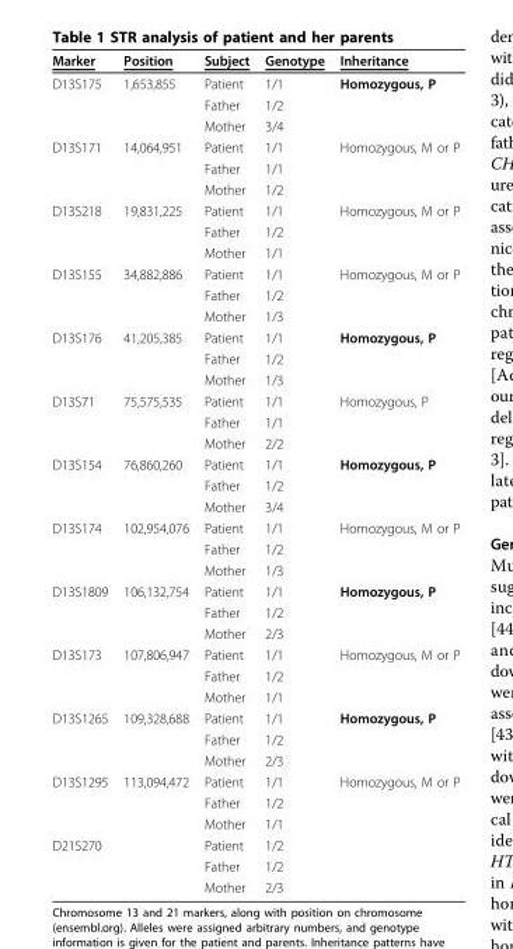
<table><thead><tr><td>Marker</td><td>Position</td><td>Subject</td><td>Genotype</td><td>Inheritance</td></tr></thead><tbody><tr><td rowspan="3">D13S175</td><td>1,653,855</td><td>Patient</td><td>1/1</td><td>Homozygous, P</td></tr><tr><td></td><td>Father</td><td>1/2</td><td></td></tr><tr><td></td><td>Mother</td><td>3/4</td><td></td></tr><tr><td rowspan="3">D13S171</td><td>14,064,951</td><td>Patient</td><td>1/1</td><td>Homozygous, M or P</td></tr><tr><td></td><td>Father</td><td>1/1</td><td></td></tr><tr><td></td><td>Mother</td><td>1/2</td><td></td></tr><tr><td rowspan="3">D13S218</td><td>19,831,225</td><td>Patient</td><td>1/1</td><td>Homozygous, M or P</td></tr><tr><td></td><td>Father</td><td>1/2</td><td></td></tr><tr><td></td><td>Mother</td><td>1/1</td><td></td></tr><tr><td rowspan="3">D13S155</td><td>34,882,886</td><td>Patient</td><td>1/1</td><td>Homozygous, M or P</td></tr><tr><td></td><td>Father</td><td>1/2</td><td></td></tr><tr><td></td><td>Mother</td><td>1/3</td><td></td></tr><tr><td rowspan="3">D13S176</td><td>41,205,385</td><td>Patient</td><td>1/1</td><td>Homozygous, P</td></tr><tr><td></td><td>Father</td><td>1/2</td><td></td></tr><tr><td></td><td>Mother</td><td>1/3</td><td></td></tr><tr><td rowspan="3">D13S71</td><td>75,575,535</td><td>Patient</td><td>1/1</td><td>Homozygous, P</td></tr><tr><td></td><td>Father</td><td>1/1</td><td></td></tr><tr><td></td><td>Mother</td><td>2/2</td><td></td></tr><tr><td rowspan="3">D13S154</td><td>76,860,260</td><td>Patient</td><td>1/1</td><td>Homozygous, P</td></tr><tr><td></td><td>Father</td><td>1/2</td><td></td></tr><tr><td></td><td>Mother</td><td>3/4</td><td></td></tr><tr><td rowspan="3">D13S174</td><td>102,954,076</td><td>Patient</td><td>1/1</td><td>Homozygous, M or P</td></tr><tr><td></td><td>Father</td><td>1/2</td><td></td></tr><tr><td></td><td>Mother</td><td>1/3</td><td></td></tr><tr><td rowspan="3">D13S1809</td><td>106,132,754</td><td>Patient</td><td>1/1</td><td>Homozygous, P</td></tr><tr><td></td><td>Father</td><td>1/2</td><td></td></tr><tr><td></td><td>Mother</td><td>2/3</td><td></td></tr><tr><td rowspan="3">D13S173</td><td>107,806,947</td><td>Patient</td><td>1/1</td><td>Homozygous, M or P</td></tr><tr><td></td><td>Father</td><td>1/2</td><td></td></tr><tr><td></td><td>Mother</td><td>1/1</td><td></td></tr><tr><td rowspan="3">D13S1265</td><td>109,328,688</td><td>Patient</td><td>1/1</td><td>Homozygous, P</td></tr><tr><td></td><td>Father</td><td>1/2</td><td></td></tr><tr><td></td><td>Mother</td><td>2/3</td><td></td></tr><tr><td rowspan="3">D13S1295</td><td>113,094,472</td><td>Patient</td><td>1/1</td><td>Homozygous, M or P</td></tr><tr><td></td><td>Father</td><td>1/2</td><td></td></tr><tr><td></td><td>Mother</td><td>1/1</td><td></td></tr><tr><td rowspan="3">D21S270</td><td></td><td>Patient</td><td>1/2</td><td></td></tr><tr><td></td><td>Father</td><td>1/2</td><td></td></tr><tr><td></td><td>Mother</td><td>2/3</td><td></td></tr></tbody></table>